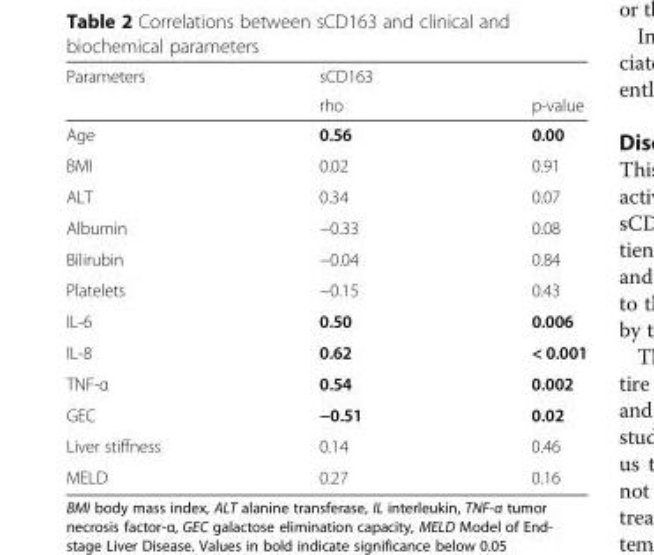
<table><thead><tr><td rowspan="2">Parameters</td><td rowspan="2">sCD163 rho</td><td rowspan="2">p-value</td></tr><tr></tr></thead><tbody><tr><td>Age</td><td>0.56</td><td>0.00</td></tr><tr><td>BMI</td><td>0.02</td><td>0.91</td></tr><tr><td>ALT</td><td>0.34</td><td>0.07</td></tr><tr><td>Albumin</td><td>−0.33</td><td>0.08</td></tr><tr><td>Bilirubin</td><td>−0.04</td><td>0.84</td></tr><tr><td>Platelets</td><td>−0.15</td><td>0.43</td></tr><tr><td>IL-6</td><td>0.50</td><td>0.006</td></tr><tr><td>IL-8</td><td>0.62</td><td>&lt; 0.001</td></tr><tr><td>TNF-α</td><td>0.54</td><td>0.002</td></tr><tr><td>GEC</td><td>−0.51</td><td>0.02</td></tr><tr><td>Liver stiffness</td><td>0.14</td><td>0.46</td></tr><tr><td>MELD</td><td>0.27</td><td>0.16</td></tr></tbody></table>